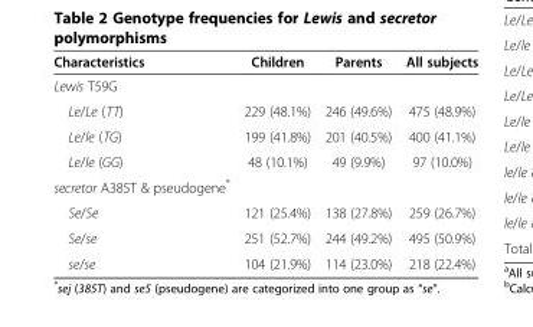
<table><thead><tr><td>Characteristics</td><td>Children</td><td>Parents</td><td>All subjects</td></tr></thead><tbody><tr><td colspan="4">Lewis T59G</td></tr><tr><td>Le/Le (TT)</td><td>229 (48.1%)</td><td>246 (49.6%)</td><td>475 (48.9%)</td></tr><tr><td>Le/le (TG)</td><td>199 (41.8%)</td><td>201 (40.5%)</td><td>400 (41.1%)</td></tr><tr><td>Le/le (GG)</td><td>48 (10.1%)</td><td>49 (9.9%)</td><td>97 (10.0%)</td></tr><tr><td colspan="4">secretor A385T &amp; pseudogene*</td></tr><tr><td>Se/Se</td><td>121 (25.4%)</td><td>138 (27.8%)</td><td>259 (26.7%)</td></tr><tr><td>Se/se</td><td>251 (52.7%)</td><td>244 (49.2%)</td><td>495 (50.9%)</td></tr><tr><td>se/se</td><td>104 (21.9%)</td><td>114 (23.0%)</td><td>218 (22.4%)</td></tr></tbody></table>